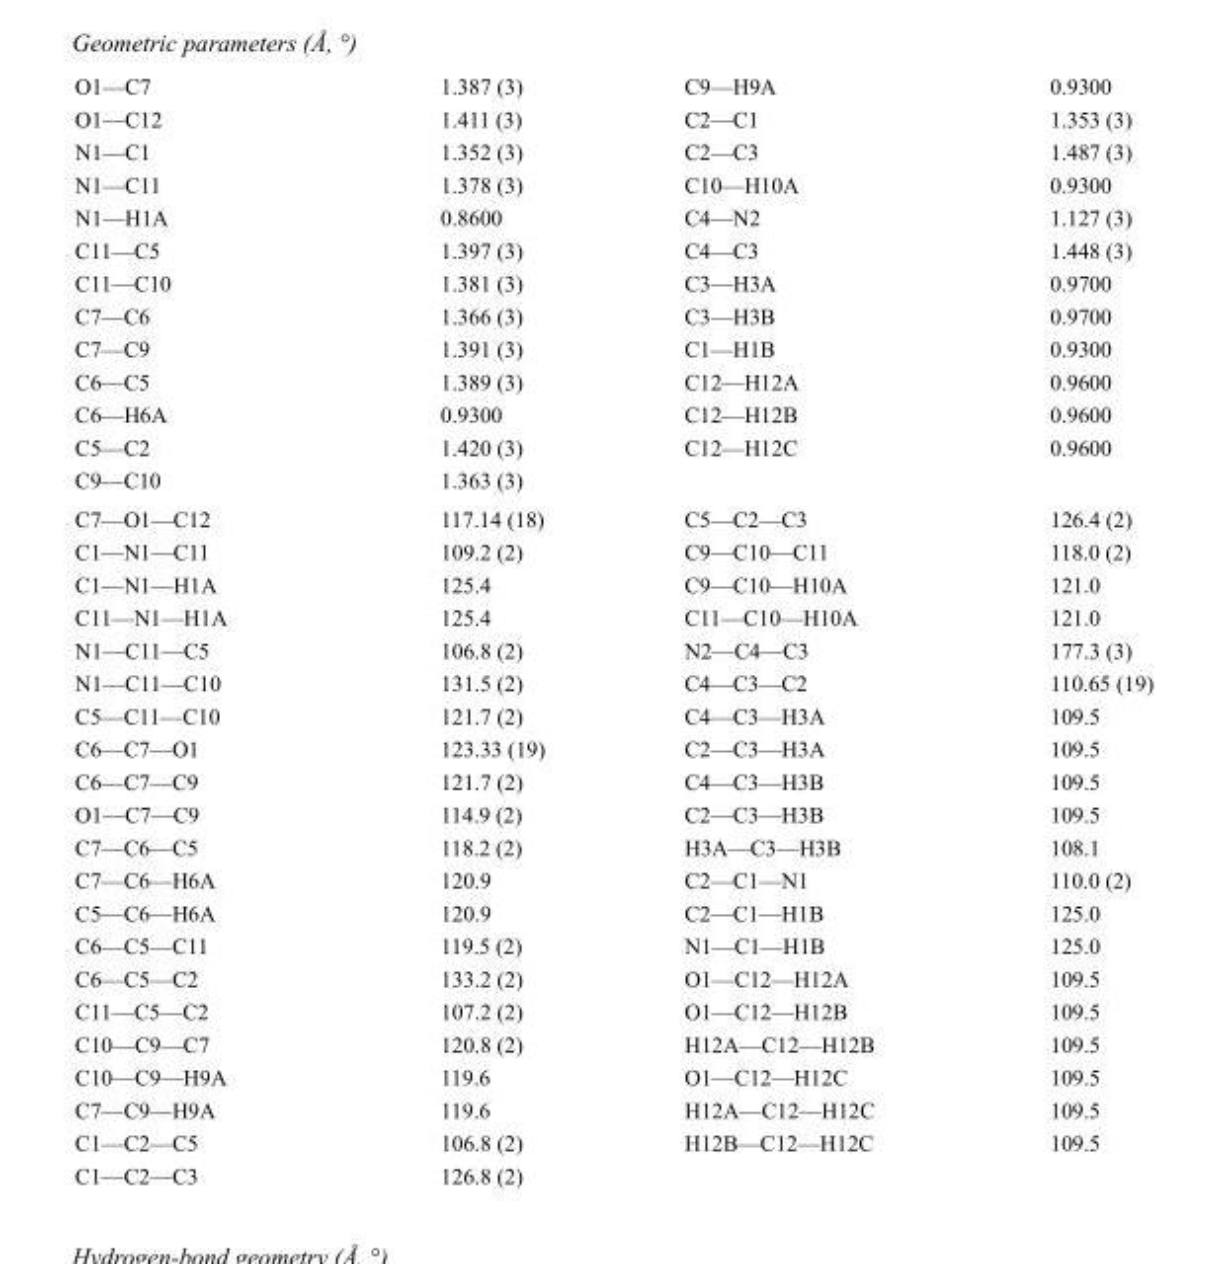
<table><tbody><tr><td>O1—C7</td><td>1.387 (3)</td><td>C9—H9A</td><td>0.9300</td></tr><tr><td>O1—C12</td><td>1.411 (3)</td><td>C2—C1</td><td>1.353 (3)</td></tr><tr><td>N1—C1</td><td>1.352 (3)</td><td>C2—C3</td><td>1.487 (3)</td></tr><tr><td>N1—C11</td><td>1.378 (3)</td><td>C10—H10A</td><td>0.9300</td></tr><tr><td>N1—H1A</td><td>0.8600</td><td>C4—N2</td><td>1.127 (3)</td></tr><tr><td>C11—C5</td><td>1.397 (3)</td><td>C4—C3</td><td>1.448 (3)</td></tr><tr><td>C11—C10</td><td>1.381 (3)</td><td>C3—H3A</td><td>0.9700</td></tr><tr><td>C7—C6</td><td>1.366 (3)</td><td>C3—H3B</td><td>0.9700</td></tr><tr><td>C7—C9</td><td>1.391 (3)</td><td>C1—H1B</td><td>0.9300</td></tr><tr><td>C6—C5</td><td>1.389 (3)</td><td>C12—H12A</td><td>0.9600</td></tr><tr><td>C6—H6A</td><td>0.9300</td><td>C12—H12B</td><td>0.9600</td></tr><tr><td>C5—C2</td><td>1.420 (3)</td><td>C12—H12C</td><td>0.9600</td></tr><tr><td>C9—C10</td><td>1.363 (3)</td><td></td><td></td></tr><tr><td>C7—O1—C12</td><td>117.14 (18)</td><td>C5—C2—C3</td><td>126.4 (2)</td></tr><tr><td>C1—N1—C11</td><td>109.2 (2)</td><td>C9—C10—C11</td><td>118.0 (2)</td></tr><tr><td>C1—N1—H1A</td><td>125.4</td><td>C9—C10—H10A</td><td>121.0</td></tr><tr><td>C11—N1—H1A</td><td>125.4</td><td>C11—C10—H10A</td><td>121.0</td></tr><tr><td>N1—C11—C5</td><td>106.8 (2)</td><td>N2—C4—C3</td><td>177.3 (3)</td></tr><tr><td>N1—C11—C10</td><td>131.5 (2)</td><td>C4—C3—C2</td><td>110.65 (19)</td></tr><tr><td>C5—C11—C10</td><td>121.7 (2)</td><td>C4—C3—H3A</td><td>109.5</td></tr><tr><td>C6—C7—O1</td><td>123.33 (19)</td><td>C2—C3—H3A</td><td>109.5</td></tr><tr><td>C6—C7—C9</td><td>121.7 (2)</td><td>C4—C3—H3B</td><td>109.5</td></tr><tr><td>O1—C7—C9</td><td>114.9 (2)</td><td>C2—C3—H3B</td><td>109.5</td></tr><tr><td>C7—C6—C5</td><td>118.2 (2)</td><td>H3A—C3—H3B</td><td>108.1</td></tr><tr><td>C7—C6—H6A</td><td>120.9</td><td>C2—C1—N1</td><td>110.0 (2)</td></tr><tr><td>C5—C6—H6A</td><td>120.9</td><td>C2—C1—H1B</td><td>125.0</td></tr><tr><td>C6—C5—C11</td><td>119.5 (2)</td><td>N1—C1—H1B</td><td>125.0</td></tr><tr><td>C6—C5—C2</td><td>133.2 (2)</td><td>O1—C12—H12A</td><td>109.5</td></tr><tr><td>C11—C5—C2</td><td>107.2 (2)</td><td>O1—C12—H12B</td><td>109.5</td></tr><tr><td>C10—C9—C7</td><td>120.8 (2)</td><td>H12A—C12—H12B</td><td>109.5</td></tr><tr><td>C10—C9—H9A</td><td>119.6</td><td>O1—C12—H12C</td><td>109.5</td></tr><tr><td>C7—C9—H9A</td><td>119.6</td><td>H12A—C12—H12C</td><td>109.5</td></tr><tr><td>C1—C2—C5</td><td>106.8 (2)</td><td>H12B—C12—H12C</td><td>109.5</td></tr><tr><td>C1—C2—C3</td><td>126.8 (2)</td><td></td><td></td></tr></tbody></table>